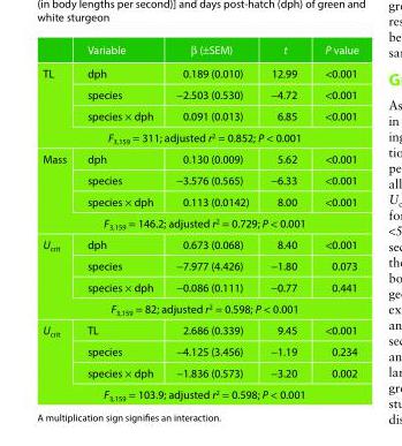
<table><thead><tr><td></td><td>Variable</td><td>β (±SEM)</td><td>t</td><td>P value</td></tr></thead><tbody><tr><td rowspan="3">TL</td><td>dph</td><td>0.189 (0.010)</td><td>12.99</td><td>&lt;0.001</td></tr><tr><td>species</td><td>−2.503 (0.530)</td><td>−4.72</td><td>&lt;0.001</td></tr><tr><td>species × dph</td><td>0.091 (0.013)</td><td>6.85</td><td>&lt;0.001</td></tr><tr><td colspan="5">F<sub>3,159</sub> = 311; adjusted r<sup>2</sup> = 0.852; P &lt; 0.001</td></tr><tr><td rowspan="3">Mass</td><td>dph</td><td>0.130 (0.009)</td><td>5.62</td><td>&lt;0.001</td></tr><tr><td>species</td><td>−3.576 (0.565)</td><td>−6.33</td><td>&lt;0.001</td></tr><tr><td>species × dph</td><td>0.113 (0.0142)</td><td>8.00</td><td>&lt;0.001</td></tr><tr><td colspan="5">F<sub>3,159</sub> = 146.2; adjusted r<sup>2</sup> = 0.729; P &lt; 0.001</td></tr><tr><td rowspan="3">U<sub>crit</sub></td><td>dph</td><td>0.673 (0.068)</td><td>8.40</td><td>&lt;0.001</td></tr><tr><td>species</td><td>−7.977 (4.426)</td><td>−1.80</td><td>0.073</td></tr><tr><td>species × dph</td><td>−0.086 (0.111)</td><td>−0.77</td><td>0.441</td></tr><tr><td colspan="5">F<sub>3,159</sub> = 82; adjusted r<sup>2</sup> = 0.598; P &lt; 0.001</td></tr><tr><td rowspan="3">U<sub>crit</sub></td><td>TL</td><td>2.686 (0.339)</td><td>9.45</td><td>&lt;0.001</td></tr><tr><td>species</td><td>−4.125 (3.456)</td><td>−1.19</td><td>0.234</td></tr><tr><td>species × dph</td><td>−1.836 (0.573)</td><td>−3.20</td><td>0.002</td></tr><tr><td colspan="5">F<sub>3,159</sub> = 103.9; adjusted r<sup>2</sup> = 0.598; P &lt; 0.001</td></tr></tbody></table>